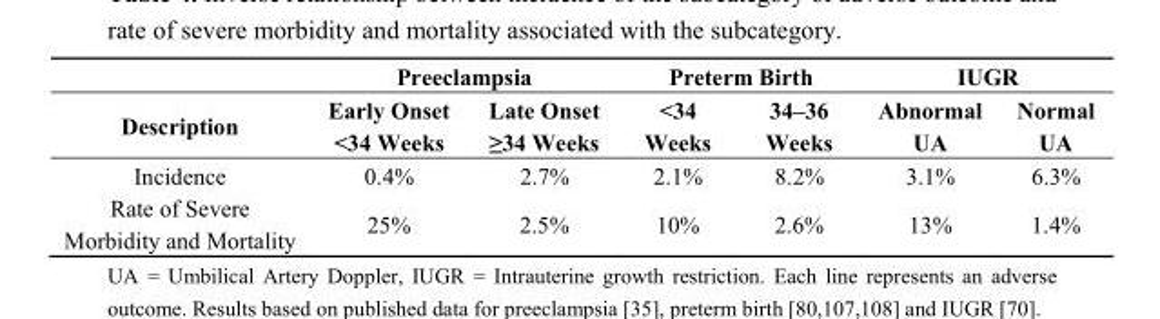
<table><thead><tr><td rowspan="2">Description</td><td colspan="2">Preeclampsia</td><td colspan="2">Preterm Birth</td><td colspan="2">IUGR</td></tr><tr><td>Early Onset &lt;34 Weeks</td><td>Late Onset ≥34 Weeks</td><td>&lt;34 Weeks</td><td>34–36 Weeks</td><td>Abnormal UA</td><td>Normal UA</td></tr></thead><tbody><tr><td>Incidence</td><td>0.4%</td><td>2.7%</td><td>2.1%</td><td>8.2%</td><td>3.1%</td><td>6.3%</td></tr><tr><td>Rate of Severe Morbidity and Mortality</td><td>25%</td><td>2.5%</td><td>10%</td><td>2.6%</td><td>13%</td><td>1.4%</td></tr></tbody></table>